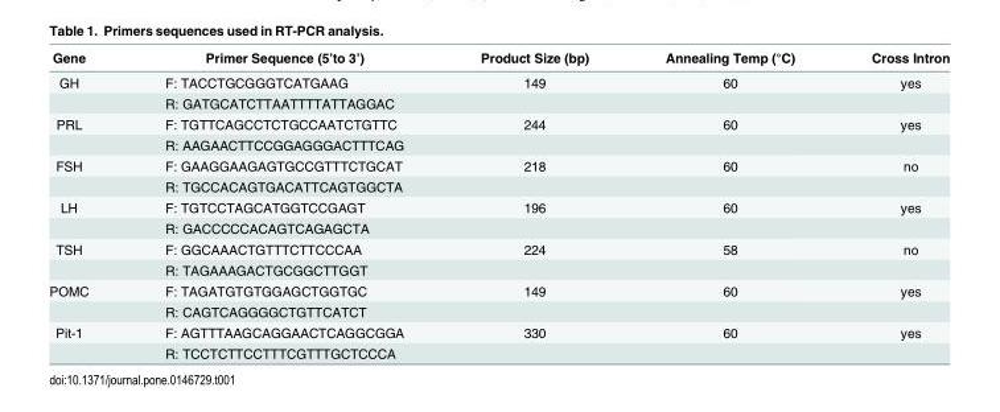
<table><thead><tr><td>Gene</td><td>Primer Sequence (5’to 3’)</td><td>Product Size (bp)</td><td>Annealing Temp (°C)</td><td>Cross Intron</td></tr></thead><tbody><tr><td rowspan="2">GH</td><td>F: TACCTGCGGGTCATGAAG</td><td>149</td><td>60</td><td>yes</td></tr><tr><td>R: GATGCATCTTAATTTTATTAGGAC</td><td></td><td></td><td></td></tr><tr><td rowspan="2">PRL</td><td>F: TGTTCAGCCTCTGCCAATCTGTTC</td><td>244</td><td>60</td><td>yes</td></tr><tr><td>R: AAGAACTTCCGGAGGGACTTTCAG</td><td></td><td></td><td></td></tr><tr><td rowspan="2">FSH</td><td>F: GAAGGAAGAGTGCCGTTTCTGCAT</td><td>218</td><td>60</td><td>no</td></tr><tr><td>R: TGCCACAGTGACATTCAGTGGCTA</td><td></td><td></td><td></td></tr><tr><td rowspan="2">LH</td><td>F: TGTCCTAGCATGGTCCGAGT</td><td>196</td><td>60</td><td>yes</td></tr><tr><td>R: GACCCCCACAGTCAGAGCTA</td><td></td><td></td><td></td></tr><tr><td rowspan="2">TSH</td><td>F: GGCAAACTGTTTCTTCCCAA</td><td>224</td><td>58</td><td>no</td></tr><tr><td>R: TAGAAAGACTGCGGCTTGGT</td><td></td><td></td><td></td></tr><tr><td rowspan="2">POMC</td><td>F: TAGATGTGTGGAGCTGGTGC</td><td>149</td><td>60</td><td>yes</td></tr><tr><td>R: CAGTCAGGGGCTGTTCATCT</td><td></td><td></td><td></td></tr><tr><td rowspan="2">Pit-1</td><td>F: AGTTTAAGCAGGAACTCAGGCGGA</td><td>330</td><td>60</td><td>yes</td></tr><tr><td>R: TCCTCTTCCTTTCGTTTGCTCCCA</td><td></td><td></td><td></td></tr></tbody></table>